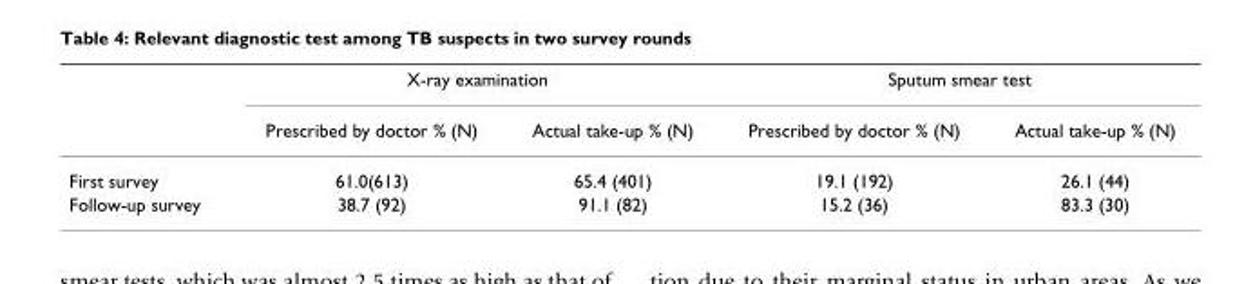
<table><thead><tr><td rowspan="2"></td><td colspan="2">X-ray examination</td><td colspan="2">Sputum smear test</td></tr><tr><td>Prescribed by doctor % (N)</td><td>Actual take-up % (N)</td><td>Prescribed by doctor % (N)</td><td>Actual take-up % (N)</td></tr></thead><tbody><tr><td>First survey</td><td>61.0(613)</td><td>65.4 (401)</td><td>19.1 (192)</td><td>26.1 (44)</td></tr><tr><td>Follow-up survey</td><td>38.7 (92)</td><td>91.1 (82)</td><td>15.2 (36)</td><td>83.3 (30)</td></tr></tbody></table>